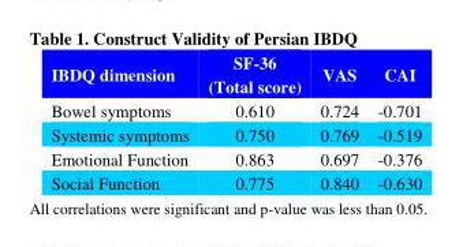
<table><thead><tr><td>IBDQ dimension</td><td>SF-36 (Total score)</td><td>VAS</td><td>CAI</td></tr></thead><tbody><tr><td>Bowel symptoms</td><td>0.610</td><td>0.724</td><td>-0.701</td></tr><tr><td>Systemic symptoms</td><td>0.750</td><td>0.769</td><td>-0.519</td></tr><tr><td>Emotional Function</td><td>0.863</td><td>0.697</td><td>-0.376</td></tr><tr><td>Social Function</td><td>0.775</td><td>0.840</td><td>-0.630</td></tr></tbody></table>